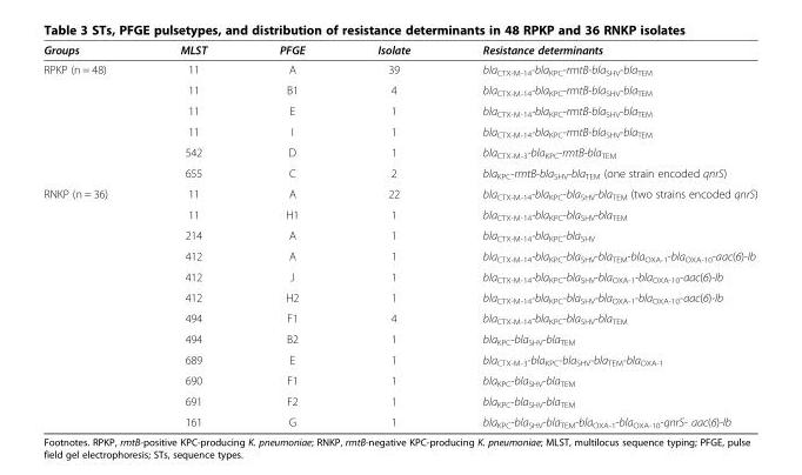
<table><thead><tr><td>Groups</td><td>MLST</td><td>PFGE</td><td>Isolate</td><td>Resistance determinants</td></tr></thead><tbody><tr><td rowspan="6">RPKP (n = 48)</td><td>11</td><td>A</td><td>39</td><td>bla<sub>CTX-M-14</sub>-bla<sub>KPC</sub>-rmtB-bla<sub>SHV</sub>-bla<sub>TEM</sub></td></tr><tr><td>11</td><td>B1</td><td>4</td><td>bla<sub>CTX-M-14</sub>-bla<sub>KPC</sub>-rmtB-bla<sub>SHV</sub>-bla<sub>TEM</sub></td></tr><tr><td>11</td><td>E</td><td>1</td><td>bla<sub>CTX-M-14</sub>-bla<sub>KPC</sub>-rmtB-bla<sub>SHV</sub>-bla<sub>TEM</sub></td></tr><tr><td>11</td><td>I</td><td>1</td><td>bla<sub>CTX-M-14</sub>-bla<sub>KPC</sub>-rmtB-bla<sub>SHV</sub>-bla<sub>TEM</sub></td></tr><tr><td>542</td><td>D</td><td>1</td><td>bla<sub>CTX-M-3</sub>-bla<sub>KPC</sub>-rmtB-bla<sub>TEM</sub></td></tr><tr><td>655</td><td>C</td><td>2</td><td>bla<sub>KPC</sub>-rmtB-bla<sub>SHV</sub>-bla<sub>TEM</sub> (one strain encoded qnrS)</td></tr><tr><td rowspan="12">RNKP (n = 36)</td><td>11</td><td>A</td><td>22</td><td>bla<sub>CTX-M-14</sub>-bla<sub>KPC</sub>-bla<sub>SHV</sub>-bla<sub>TEM</sub> (two strains encoded qnrS)</td></tr><tr><td>11</td><td>H1</td><td>1</td><td>bla<sub>CTX-M-14</sub>-bla<sub>KPC</sub>-bla<sub>SHV</sub>-bla<sub>TEM</sub></td></tr><tr><td>214</td><td>A</td><td>1</td><td>bla<sub>CTX-M-14</sub>-bla<sub>KPC</sub>-bla<sub>SHV</sub></td></tr><tr><td>412</td><td>A</td><td>1</td><td>bla<sub>CTX-M-14</sub>-bla<sub>KPC</sub>-bla<sub>SHV</sub>-bla<sub>TEM</sub>-bla<sub>OXA-1</sub>-bla<sub>OXA-10</sub>-aac(6)-Ib</td></tr><tr><td>412</td><td>J</td><td>1</td><td>bla<sub>CTX-M-14</sub>-bla<sub>KPC</sub>-bla<sub>SHV</sub>-bla<sub>OXA-1</sub>-bla<sub>OXA-10</sub>-aac(6)-Ib</td></tr><tr><td>412</td><td>H2</td><td>1</td><td>bla<sub>CTX-M-14</sub>-bla<sub>KPC</sub>-bla<sub>SHV</sub>-bla<sub>OXA-1</sub>-bla<sub>OXA-10</sub>-aac(6)-Ib</td></tr><tr><td>494</td><td>F1</td><td>4</td><td>bla<sub>CTX-M-14</sub>-bla<sub>KPC</sub>-bla<sub>SHV</sub>-bla<sub>TEM</sub></td></tr><tr><td>494</td><td>B2</td><td>1</td><td>bla<sub>KPC</sub>-bla<sub>SHV</sub>-bla<sub>TEM</sub></td></tr><tr><td>689</td><td>E</td><td>1</td><td>bla<sub>CTX-M-3</sub>-bla<sub>KPC</sub>-bla<sub>SHV</sub>-bla<sub>TEM</sub>-bla<sub>OXA-1</sub></td></tr><tr><td>690</td><td>F1</td><td>1</td><td>bla<sub>KPC</sub>-bla<sub>SHV</sub>-bla<sub>TEM</sub></td></tr><tr><td>691</td><td>F2</td><td>1</td><td>bla<sub>KPC</sub>-bla<sub>SHV</sub>-bla<sub>TEM</sub></td></tr><tr><td>161</td><td>G</td><td>1</td><td>bla<sub>KPC</sub>-bla<sub>SHV</sub>-bla<sub>TEM</sub>-bla<sub>OXA-1</sub>-bla<sub>OXA-10</sub>-qnrS- aac(6)-Ib</td></tr></tbody></table>